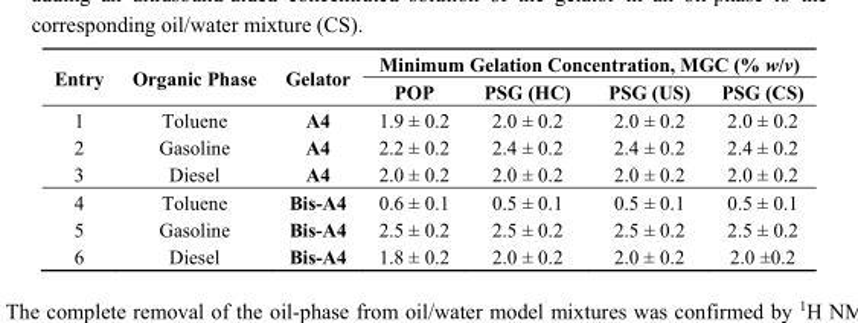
<table><thead><tr><td rowspan="2">Entry</td><td rowspan="2">Organic Phase</td><td rowspan="2">Gelator</td><td colspan="4">Minimum Gelation Concentration, MGC (% w/v)</td></tr><tr><td>POP</td><td>PSG (HC)</td><td>PSG (US)</td><td>PSG (CS)</td></tr></thead><tbody><tr><td>1</td><td>Toluene</td><td>A4</td><td>1.9 ± 0.2</td><td>2.0 ± 0.2</td><td>2.0 ± 0.2</td><td>2.0 ± 0.2</td></tr><tr><td>2</td><td>Gasoline</td><td>A4</td><td>2.2 ± 0.2</td><td>2.4 ± 0.2</td><td>2.4 ± 0.2</td><td>2.4 ± 0.2</td></tr><tr><td>3</td><td>Diesel</td><td>A4</td><td>2.0 ± 0.2</td><td>2.0 ± 0.2</td><td>2.0 ± 0.2</td><td>2.0 ± 0.2</td></tr><tr><td>4</td><td>Toluene</td><td>Bis-A4</td><td>0.6 ± 0.1</td><td>0.5 ± 0.1</td><td>0.5 ± 0.1</td><td>0.5 ± 0.1</td></tr><tr><td>5</td><td>Gasoline</td><td>Bis-A4</td><td>2.5 ± 0.2</td><td>2.5 ± 0.2</td><td>2.5 ± 0.2</td><td>2.5 ± 0.2</td></tr><tr><td>6</td><td>Diesel</td><td>Bis-A4</td><td>1.8 ± 0.2</td><td>2.0 ± 0.2</td><td>2.0 ± 0.2</td><td>2.0 ±0.2</td></tr></tbody></table>